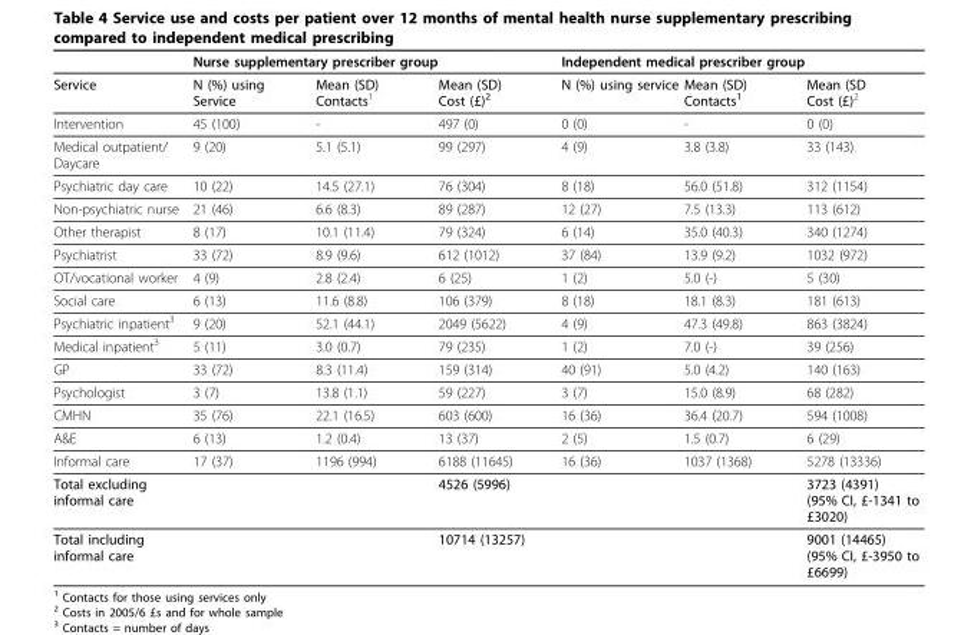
<table><thead><tr><td rowspan="2">Service</td><td colspan="3">Nurse supplementary prescriber group</td><td colspan="3">Independent medical prescriber group</td></tr><tr><td>N (%) using Service</td><td>Mean (SD) Contacts<sup>1</sup></td><td>Mean (SD) Cost (£)<sup>2</sup></td><td>N (%) using service</td><td>Mean (SD) Contacts<sup>1</sup></td><td>Mean (SD Cost (£)<sup>2</sup></td></tr></thead><tbody><tr><td>Intervention</td><td>45 (100)</td><td>-</td><td>497 (0)</td><td>0 (0)</td><td>-</td><td>0 (0)</td></tr><tr><td>Medical outpatient/ Daycare</td><td>9 (20)</td><td>5.1 (5.1)</td><td>99 (297)</td><td>4 (9)</td><td>3.8 (3.8)</td><td>33 (143)</td></tr><tr><td>Psychiatric day care</td><td>10 (22)</td><td>14.5 (27.1)</td><td>76 (304)</td><td>8 (18)</td><td>56.0 (51.8)</td><td>312 (1154)</td></tr><tr><td>Non-psychiatric nurse</td><td>21 (46)</td><td>6.6 (8.3)</td><td>89 (287)</td><td>12 (27)</td><td>7.5 (13.3)</td><td>113 (612)</td></tr><tr><td>Other therapist</td><td>8 (17)</td><td>10.1 (11.4)</td><td>79 (324)</td><td>6 (14)</td><td>35.0 (40.3)</td><td>340 (1274)</td></tr><tr><td>Psychiatrist</td><td>33 (72)</td><td>8.9 (9.6)</td><td>612 (1012)</td><td>37 (84)</td><td>13.9 (9.2)</td><td>1032 (972)</td></tr><tr><td>OT/vocational worker</td><td>4 (9)</td><td>2.8 (2.4)</td><td>6 (25)</td><td>1 (2)</td><td>5.0 (-)</td><td>5 (30)</td></tr><tr><td>Social care</td><td>6 (13)</td><td>11.6 (8.8)</td><td>106 (379)</td><td>8 (18)</td><td>18.1 (8.3)</td><td>181 (613)</td></tr><tr><td>Psychiatric inpatient<sup>3</sup></td><td>9 (20)</td><td>52.1 (44.1)</td><td>2049 (5622)</td><td>4 (9)</td><td>47.3 (49.8)</td><td>863 (3824)</td></tr><tr><td>Medical inpatient<sup>3</sup></td><td>5 (11)</td><td>3.0 (0.7)</td><td>79 (235)</td><td>1 (2)</td><td>7.0 (-)</td><td>39 (256)</td></tr><tr><td>GP</td><td>33 (72)</td><td>8.3 (11.4)</td><td>159 (314)</td><td>40 (91)</td><td>5.0 (4.2)</td><td>140 (163)</td></tr><tr><td>Psychologist</td><td>3 (7)</td><td>13.8 (1.1)</td><td>59 (227)</td><td>3 (7)</td><td>15.0 (8.9)</td><td>68 (282)</td></tr><tr><td>CMHN</td><td>35 (76)</td><td>22.1 (16.5)</td><td>603 (600)</td><td>16 (36)</td><td>36.4 (20.7)</td><td>594 (1008)</td></tr><tr><td>A&amp;E</td><td>6 (13)</td><td>1.2 (0.4)</td><td>13 (37)</td><td>2 (5)</td><td>1.5 (0.7)</td><td>6 (29)</td></tr><tr><td>Informal care</td><td>17 (37)</td><td>1196 (994)</td><td>6188 (11645)</td><td>16 (36)</td><td>1037 (1368)</td><td>5278 (13336)</td></tr><tr><td>Total excluding informal care</td><td></td><td></td><td>4526 (5996)</td><td></td><td></td><td>3723 (4391) (95% CI, £-1341 to £3020)</td></tr><tr><td>Total including informal care</td><td></td><td></td><td>10714 (13257)</td><td></td><td></td><td>9001 (14465) (95% CI, £-3950 to £6699)</td></tr></tbody></table>